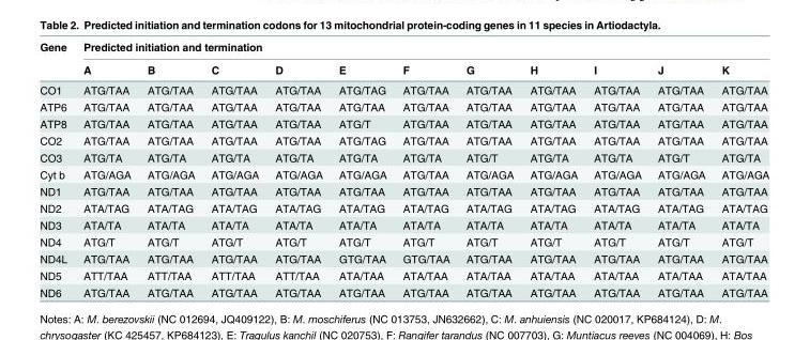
<table><thead><tr><td rowspan="2">Gene</td><td colspan="11">Predicted initiation and termination</td></tr><tr><td>A</td><td>B</td><td>C</td><td>D</td><td>E</td><td>F</td><td>G</td><td>H</td><td>I</td><td>J</td><td>K</td></tr></thead><tbody><tr><td>CO1</td><td>ATG/TAA</td><td>ATG/TAA</td><td>ATG/TAA</td><td>ATG/TAA</td><td>ATG/TAG</td><td>ATG/TAA</td><td>ATG/TAA</td><td>ATG/TAA</td><td>ATG/TAA</td><td>ATG/TAA</td><td>ATG/TAA</td></tr><tr><td>ATP6</td><td>ATG/TAA</td><td>ATG/TAA</td><td>ATG/TAA</td><td>ATG/TAA</td><td>ATG/TAA</td><td>ATG/TAA</td><td>ATG/TAA</td><td>ATG/TAA</td><td>ATG/TAA</td><td>ATG/TAA</td><td>ATG/TAA</td></tr><tr><td>ATP8</td><td>ATG/TAA</td><td>ATG/TAA</td><td>ATG/TAA</td><td>ATG/TAA</td><td>ATG/T</td><td>ATG/TAA</td><td>ATG/TAA</td><td>ATG/TAA</td><td>ATG/TAA</td><td>ATG/TAA</td><td>ATG/TAA</td></tr><tr><td>CO2</td><td>ATG/TAA</td><td>ATG/TAA</td><td>ATG/TAA</td><td>ATG/TAA</td><td>ATG/TAG</td><td>ATG/TAA</td><td>ATG/TAA</td><td>ATG/TAA</td><td>ATG/TAA</td><td>ATG/TAA</td><td>ATG/TAA</td></tr><tr><td>CO3</td><td>ATG/TA</td><td>ATG/TA</td><td>ATG/TA</td><td>ATG/TA</td><td>ATG/TA</td><td>ATG/TA</td><td>ATG/T</td><td>ATG/TA</td><td>ATG/TA</td><td>ATG/T</td><td>ATG/TA</td></tr><tr><td>Cyt b</td><td>ATG/AGA</td><td>ATG/AGA</td><td>ATG/AGA</td><td>ATG/AGA</td><td>ATG/AGA</td><td>ATG/TAA</td><td>ATG/AGA</td><td>ATG/AGA</td><td>ATG/AGA</td><td>ATG/AGA</td><td>ATG/AGA</td></tr><tr><td>ND1</td><td>ATG/TAA</td><td>ATG/TAA</td><td>ATG/TAA</td><td>ATG/TAA</td><td>ATG/TAA</td><td>ATG/TAA</td><td>ATG/TAA</td><td>ATG/TAA</td><td>ATG/TAA</td><td>ATG/TAA</td><td>ATG/TAA</td></tr><tr><td>ND2</td><td>ATA/TAG</td><td>ATA/TAG</td><td>ATA/TAG</td><td>ATA/TAG</td><td>ATA/TAG</td><td>ATA/TAG</td><td>ATA/TAG</td><td>ATA/TAG</td><td>ATA/TAG</td><td>ATA/TAG</td><td>ATA/TAG</td></tr><tr><td>ND3</td><td>ATA/TA</td><td>ATA/TA</td><td>ATA/TA</td><td>ATA/TA</td><td>ATA/TA</td><td>ATA/TA</td><td>ATA/TA</td><td>ATA/TA</td><td>ATA/TA</td><td>ATA/TA</td><td>ATA/TA</td></tr><tr><td>ND4</td><td>ATG/T</td><td>ATG/T</td><td>ATG/T</td><td>ATG/T</td><td>ATG/T</td><td>ATG/T</td><td>ATG/T</td><td>ATG/T</td><td>ATG/T</td><td>ATG/T</td><td>ATG/T</td></tr><tr><td>ND4L</td><td>ATG/TAA</td><td>ATG/TAA</td><td>ATG/TAA</td><td>ATG/TAA</td><td>GTG/TAA</td><td>GTG/TAA</td><td>ATG/TAA</td><td>ATG/TAA</td><td>ATG/TAA</td><td>ATG/TAA</td><td>ATG/TAA</td></tr><tr><td>ND5</td><td>ATT/TAA</td><td>ATT/TAA</td><td>ATT/TAA</td><td>ATT/TAA</td><td>ATA/TAA</td><td>ATA/TAA</td><td>ATA/TAA</td><td>ATA/TAA</td><td>ATA/TAA</td><td>ATA/TAA</td><td>ATA/TAA</td></tr><tr><td>ND6</td><td>ATG/TAA</td><td>ATG/TAA</td><td>ATG/TAA</td><td>ATG/TAA</td><td>ATG/TAA</td><td>ATG/TAA</td><td>ATG/TAA</td><td>ATG/TAA</td><td>ATG/TAA</td><td>ATG/TAA</td><td>ATG/TAA</td></tr></tbody></table>